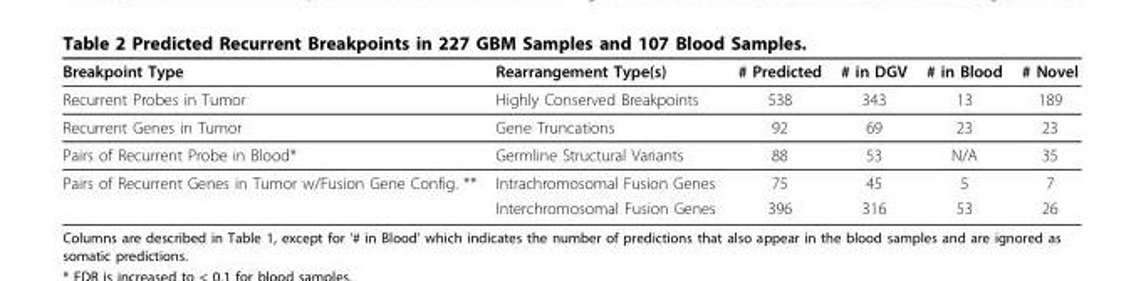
<table><thead><tr><td>Breakpoint Type</td><td>Rearrangement Type(s)</td><td># Predicted</td><td># in DGV</td><td># in Blood</td><td># Novel</td></tr></thead><tbody><tr><td>Recurrent Probes in Tumor</td><td>Highly Conserved Breakpoints</td><td>538</td><td>343</td><td>13</td><td>189</td></tr><tr><td>Recurrent Genes in Tumor</td><td>Gene Truncations</td><td>92</td><td>69</td><td>23</td><td>23</td></tr><tr><td>Pairs of Recurrent Probe in Blood*</td><td>Germline Structural Variants</td><td>88</td><td>53</td><td>N/A</td><td>35</td></tr><tr><td rowspan="2">Pairs of Recurrent Genes in Tumor w/Fusion Gene Config. **</td><td>Intrachromosomal Fusion Genes</td><td>75</td><td>45</td><td>5</td><td>7</td></tr><tr><td>Interchromosomal Fusion Genes</td><td>396</td><td>316</td><td>53</td><td>26</td></tr></tbody></table>